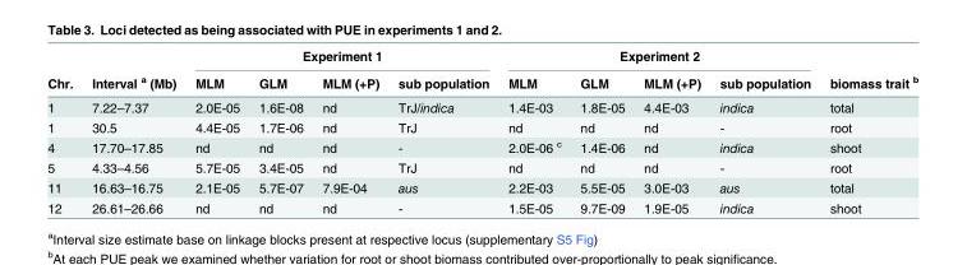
<table><thead><tr><td rowspan="2">Chr.</td><td rowspan="2">Interval <sup>a</sup> (Mb)</td><td colspan="4">Experiment 1</td><td colspan="4">Experiment 2</td><td rowspan="2">biomass trait <sup>b</sup></td></tr><tr><td>MLM</td><td>GLM</td><td>MLM (+P)</td><td>sub population</td><td>MLM</td><td>GLM</td><td>MLM (+P)</td><td>sub population</td></tr></thead><tbody><tr><td>1</td><td>7.22–7.37</td><td>2.0E-05</td><td>1.6E-08</td><td>nd</td><td>TrJ/indica</td><td>1.4E-03</td><td>1.8E-05</td><td>4.4E-03</td><td>indica</td><td>total</td></tr><tr><td>1</td><td>30.5</td><td>4.4E-05</td><td>1.7E-06</td><td>nd</td><td>TrJ</td><td>nd</td><td>nd</td><td>nd</td><td>-</td><td>root</td></tr><tr><td>4</td><td>17.70–17.85</td><td>nd</td><td>nd</td><td>nd</td><td>-</td><td>2.0E-06 <sup>c</sup></td><td>1.4E-06</td><td>nd</td><td>indica</td><td>shoot</td></tr><tr><td>5</td><td>4.33–4.56</td><td>5.7E-05</td><td>3.4E-05</td><td>nd</td><td>TrJ</td><td>nd</td><td>nd</td><td>nd</td><td>-</td><td>root</td></tr><tr><td>11</td><td>16.63–16.75</td><td>2.1E-05</td><td>5.7E-07</td><td>7.9E-04</td><td>aus</td><td>2.2E-03</td><td>5.5E-05</td><td>3.0E-03</td><td>aus</td><td>total</td></tr><tr><td>12</td><td>26.61–26.66</td><td>nd</td><td>nd</td><td>nd</td><td>-</td><td>1.5E-05</td><td>9.7E-09</td><td>1.9E-05</td><td>indica</td><td>shoot</td></tr></tbody></table>